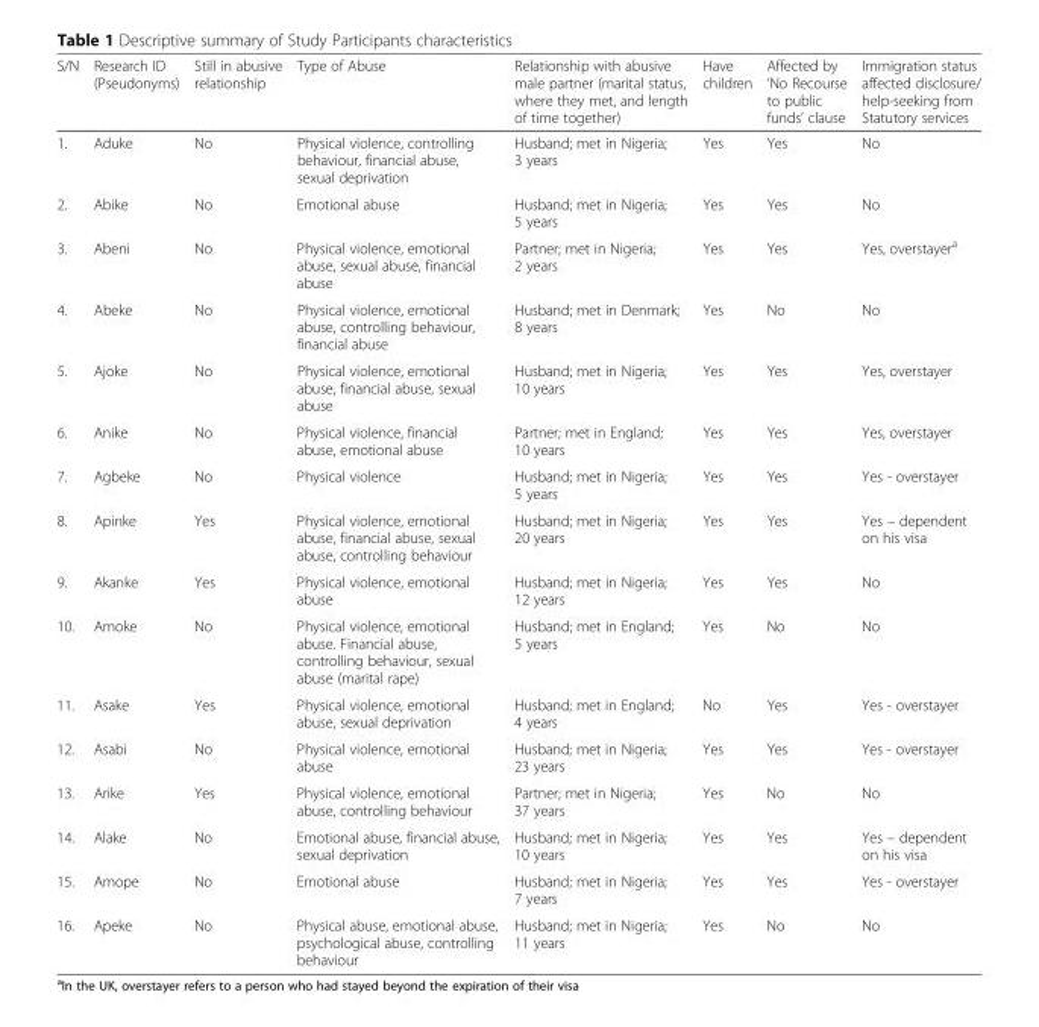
<table><thead><tr><td>S/N</td><td>Research ID (Pseudonyms)</td><td>Still in abusive relationship</td><td>Type of Abuse</td><td>Relationship with abusive male partner (marital status, where they met, and length of time together)</td><td>Have children</td><td>Affected by ‘No Recourse to public funds’ clause</td><td>Immigration status affected disclosure/ help-seeking from Statutory services</td></tr></thead><tbody><tr><td>1.</td><td>Aduke</td><td>No</td><td>Physical violence, controlling behaviour, financial abuse, sexual deprivation</td><td>Husband; met in Nigeria; 3 years</td><td>Yes</td><td>Yes</td><td>No</td></tr><tr><td>2.</td><td>Abike</td><td>No</td><td>Emotional abuse</td><td>Husband; met in Nigeria; 5 years</td><td>Yes</td><td>Yes</td><td>No</td></tr><tr><td>3.</td><td>Abeni</td><td>No</td><td>Physical violence, emotional abuse, sexual abuse, financial abuse</td><td>Partner; met in Nigeria; 2 years</td><td>Yes</td><td>Yes</td><td>Yes, overstayer<sup>a</sup></td></tr><tr><td>4.</td><td>Abeke</td><td>No</td><td>Physical violence, emotional abuse, controlling behaviour, financial abuse</td><td>Husband; met in Denmark; 8 years</td><td>Yes</td><td>No</td><td>No</td></tr><tr><td>5.</td><td>Ajoke</td><td>No</td><td>Physical violence, emotional abuse, financial abuse, sexual abuse</td><td>Husband; met in Nigeria; 10 years</td><td>Yes</td><td>Yes</td><td>Yes, overstayer</td></tr><tr><td>6.</td><td>Anike</td><td>No</td><td>Physical violence, financial abuse, emotional abuse</td><td>Partner; met in England; 10 years</td><td>Yes</td><td>Yes</td><td>Yes, overstayer</td></tr><tr><td>7.</td><td>Agbeke</td><td>No</td><td>Physical violence</td><td>Husband; met in Nigeria; 5 years</td><td>Yes</td><td>Yes</td><td>Yes - overstayer</td></tr><tr><td>8.</td><td>Apinke</td><td>Yes</td><td>Physical violence, emotional abuse, financial abuse, sexual abuse, controlling behaviour</td><td>Husband; met in Nigeria; 20 years</td><td>Yes</td><td>Yes</td><td>Yes – dependent on his visa</td></tr><tr><td>9.</td><td>Akanke</td><td>Yes</td><td>Physical violence, emotional abuse</td><td>Husband; met in Nigeria; 12 years</td><td>Yes</td><td>Yes</td><td>No</td></tr><tr><td>10.</td><td>Amoke</td><td>No</td><td>Physical violence, emotional abuse. Financial abuse, controlling behaviour, sexual abuse (marital rape)</td><td>Husband; met in England; 5 years</td><td>Yes</td><td>No</td><td>No</td></tr><tr><td>11.</td><td>Asake</td><td>Yes</td><td>Physical violence, emotional abuse, sexual deprivation</td><td>Husband; met in England; 4 years</td><td>No</td><td>Yes</td><td>Yes - overstayer</td></tr><tr><td>12.</td><td>Asabi</td><td>No</td><td>Physical violence, emotional abuse</td><td>Husband; met in Nigeria; 23 years</td><td>Yes</td><td>Yes</td><td>Yes - overstayer</td></tr><tr><td>13.</td><td>Arike</td><td>Yes</td><td>Physical violence, emotional abuse, controlling behaviour</td><td>Partner; met in Nigeria; 37 years</td><td>Yes</td><td>No</td><td>No</td></tr><tr><td>14.</td><td>Alake</td><td>No</td><td>Emotional abuse, financial abuse, sexual deprivation</td><td>Husband; met in Nigeria; 10 years</td><td>Yes</td><td>Yes</td><td>Yes – dependent on his visa</td></tr><tr><td>15.</td><td>Amope</td><td>No</td><td>Emotional abuse</td><td>Husband; met in Nigeria; 7 years</td><td>Yes</td><td>Yes</td><td>Yes - overstayer</td></tr><tr><td>16.</td><td>Apeke</td><td>No</td><td>Physical abuse, emotional abuse, psychological abuse, controlling behaviour</td><td>Husband; met in Nigeria; 11 years</td><td>Yes</td><td>No</td><td>No</td></tr></tbody></table>